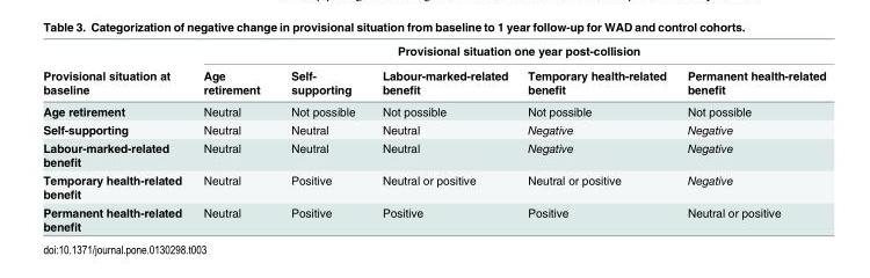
<table><thead><tr><td rowspan="2">Provisional situation at baseline</td><td colspan="5">Provisional situation one year post-collision</td></tr><tr><td>Age retirement</td><td>Self- supporting</td><td>Labour-marked-related benefit</td><td>Temporary health-related benefit</td><td>Permanent health-related benefit</td></tr></thead><tbody><tr><td>Age retirement</td><td>Neutral</td><td>Not possible</td><td>Not possible</td><td>Not possible</td><td>Not possible</td></tr><tr><td>Self-supporting</td><td>Neutral</td><td>Neutral</td><td>Neutral</td><td>Negative</td><td>Negative</td></tr><tr><td>Labour-marked-related benefit</td><td>Neutral</td><td>Neutral</td><td>Neutral</td><td>Negative</td><td>Negative</td></tr><tr><td>Temporary health-related benefit</td><td>Neutral</td><td>Positive</td><td>Neutral or positive</td><td>Neutral or positive</td><td>Negative</td></tr><tr><td>Permanent health-related benefit</td><td>Neutral</td><td>Positive</td><td>Positive</td><td>Positive</td><td>Neutral or positive</td></tr></tbody></table>